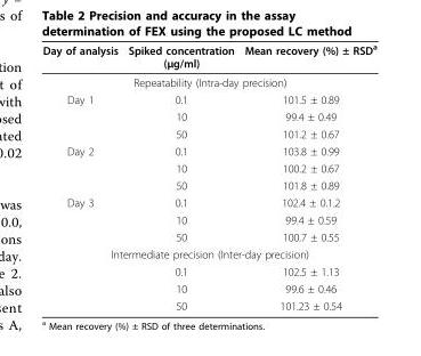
<table><thead><tr><td>Day of analysis</td><td>Spiked concentration (μg/ml)</td><td>Mean recovery (%) ± RSD<sup>a</sup></td></tr></thead><tbody><tr><td colspan="3">Repeatability (Intra-day precision)</td></tr><tr><td rowspan="3">Day 1</td><td>0.1</td><td>101.5 ± 0.89</td></tr><tr><td>10</td><td>99.4 ± 0.49</td></tr><tr><td>50</td><td>101.2 ± 0.67</td></tr><tr><td rowspan="3">Day 2</td><td>0.1</td><td>103.8 ± 0.99</td></tr><tr><td>10</td><td>100.2 ± 0.67</td></tr><tr><td>50</td><td>101.8 ± 0.89</td></tr><tr><td rowspan="3">Day 3</td><td>0.1</td><td>102.4 ± 0.1.2</td></tr><tr><td>10</td><td>99.4 ± 0.59</td></tr><tr><td>50</td><td>100.7 ± 0.55</td></tr><tr><td colspan="3">Intermediate precision (Inter-day precision)</td></tr><tr><td></td><td>0.1</td><td>102.5 ± 1.13</td></tr><tr><td></td><td>10</td><td>99.6 ± 0.46</td></tr><tr><td></td><td>50</td><td>101.23 ± 0.54</td></tr></tbody></table>